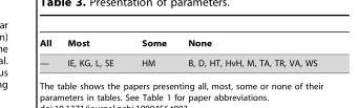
<table><thead><tr><td>All</td><td>Most</td><td>Some</td><td>None</td></tr></thead><tbody><tr><td>—</td><td>IE, KG, L, SE</td><td>HM</td><td>B, D, HT, HvH, M, TA, TR, VA, WS</td></tr></tbody></table>